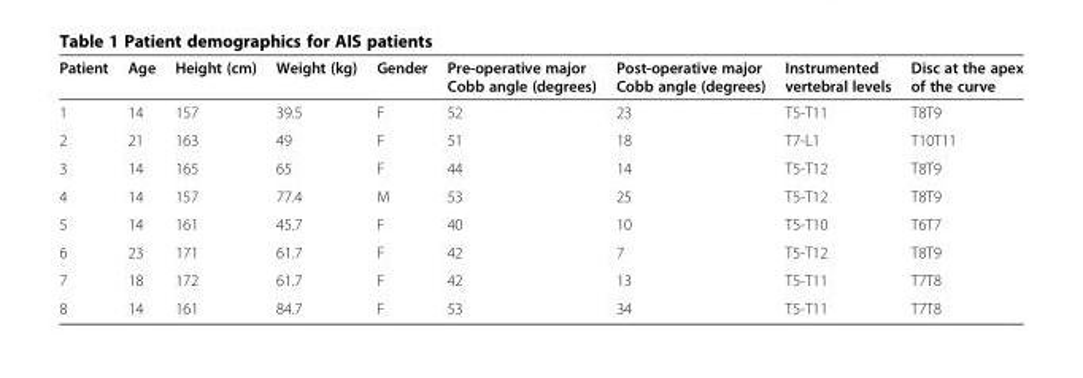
<table><thead><tr><td>Patient</td><td>Age</td><td>Height (cm)</td><td>Weight (kg)</td><td>Gender</td><td>Pre-operative major Cobb angle (degrees)</td><td>Post-operative major Cobb angle (degrees)</td><td>Instrumented vertebral levels</td><td>Disc at the apex of the curve</td></tr></thead><tbody><tr><td>1</td><td>14</td><td>157</td><td>39.5</td><td>F</td><td>52</td><td>23</td><td>T5-T11</td><td>T8T9</td></tr><tr><td>2</td><td>21</td><td>163</td><td>49</td><td>F</td><td>51</td><td>18</td><td>T7-L1</td><td>T10T11</td></tr><tr><td>3</td><td>14</td><td>165</td><td>65</td><td>F</td><td>44</td><td>14</td><td>T5-T12</td><td>T8T9</td></tr><tr><td>4</td><td>14</td><td>157</td><td>77.4</td><td>M</td><td>53</td><td>25</td><td>T5-T12</td><td>T8T9</td></tr><tr><td>5</td><td>14</td><td>161</td><td>45.7</td><td>F</td><td>40</td><td>10</td><td>T5-T10</td><td>T6T7</td></tr><tr><td>6</td><td>23</td><td>171</td><td>61.7</td><td>F</td><td>42</td><td>7</td><td>T5-T12</td><td>T8T9</td></tr><tr><td>7</td><td>18</td><td>172</td><td>61.7</td><td>F</td><td>42</td><td>13</td><td>T5-T11</td><td>T7T8</td></tr><tr><td>8</td><td>14</td><td>161</td><td>84.7</td><td>F</td><td>53</td><td>34</td><td>T5-T11</td><td>T7T8</td></tr></tbody></table>